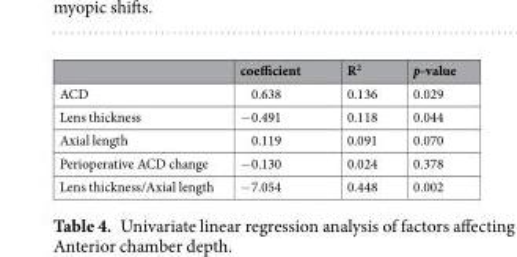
<table><thead><tr><td></td><td>coefficient</td><td>R<sup>2</sup></td><td>p-value</td></tr></thead><tbody><tr><td>ACD</td><td>0.638</td><td>0.136</td><td>0.029</td></tr><tr><td>Lens thickness</td><td>−0.491</td><td>0.118</td><td>0.044</td></tr><tr><td>Axial length</td><td>0.119</td><td>0.091</td><td>0.070</td></tr><tr><td>Perioperative ACD change</td><td>−0.130</td><td>0.024</td><td>0.378</td></tr><tr><td>Lens thickness/Axial length</td><td>−7.054</td><td>0.448</td><td>0.002</td></tr></tbody></table>